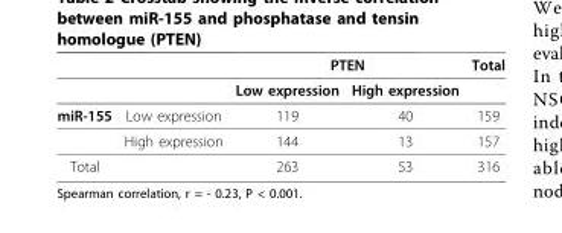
<table><thead><tr><td rowspan="2"></td><td rowspan="2"></td><td colspan="2">PTEN</td><td rowspan="2">Total</td></tr><tr><td>Low expression</td><td>High expression</td></tr></thead><tbody><tr><td rowspan="2">miR-155</td><td>Low expression</td><td>119</td><td>40</td><td>159</td></tr><tr><td>High expression</td><td>144</td><td>13</td><td>157</td></tr><tr><td>Total</td><td></td><td>263</td><td>53</td><td>316</td></tr></tbody></table>